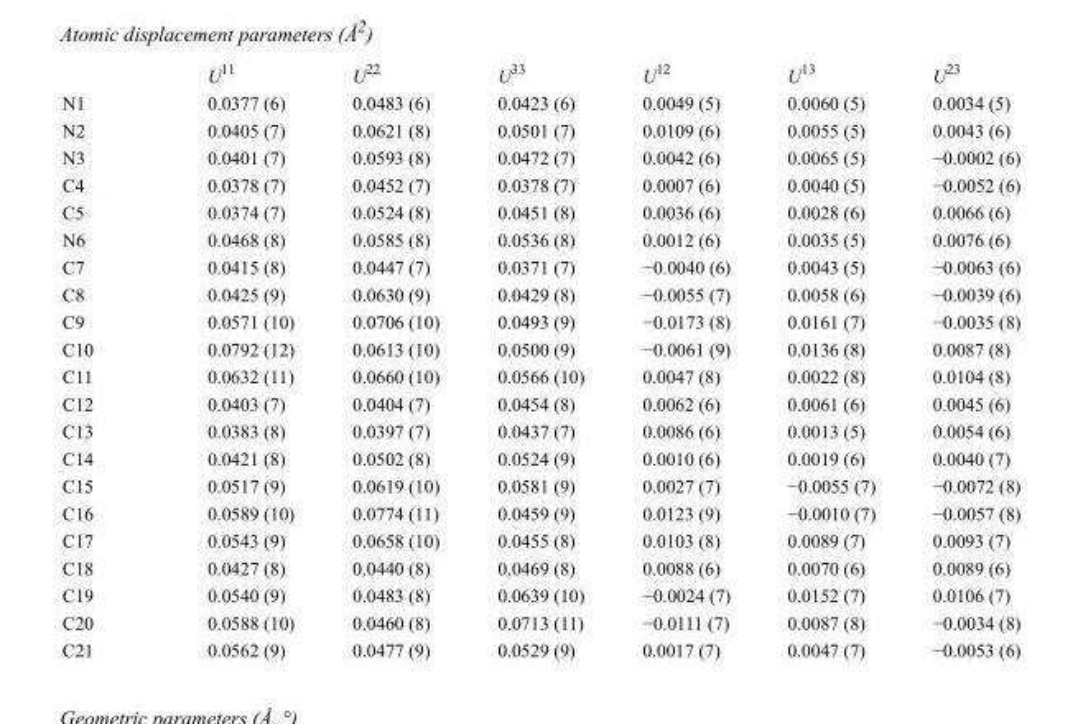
<table><thead><tr><td></td><td>U<sup>11</sup></td><td>U<sup>22</sup></td><td>U<sup>33</sup></td><td>U<sup>12</sup></td><td>U<sup>13</sup></td><td>U<sup>23</sup></td></tr></thead><tbody><tr><td>N1</td><td>0.0377 (6)</td><td>0.0483 (6)</td><td>0.0423 (6)</td><td>0.0049 (5)</td><td>0.0060 (5)</td><td>0.0034 (5)</td></tr><tr><td>N2</td><td>0.0405 (7)</td><td>0.0621 (8)</td><td>0.0501 (7)</td><td>0.0109 (6)</td><td>0.0055 (5)</td><td>0.0043 (6)</td></tr><tr><td>N3</td><td>0.0401 (7)</td><td>0.0593 (8)</td><td>0.0472 (7)</td><td>0.0042 (6)</td><td>0.0065 (5)</td><td>−0.0002 (6)</td></tr><tr><td>C4</td><td>0.0378 (7)</td><td>0.0452 (7)</td><td>0.0378 (7)</td><td>0.0007 (6)</td><td>0.0040 (5)</td><td>−0.0052 (6)</td></tr><tr><td>C5</td><td>0.0374 (7)</td><td>0.0524 (8)</td><td>0.0451 (8)</td><td>0.0036 (6)</td><td>0.0028 (6)</td><td>0.0066 (6)</td></tr><tr><td>N6</td><td>0.0468 (8)</td><td>0.0585 (8)</td><td>0.0536 (8)</td><td>0.0012 (6)</td><td>0.0035 (5)</td><td>0.0076 (6)</td></tr><tr><td>C7</td><td>0.0415 (8)</td><td>0.0447 (7)</td><td>0.0371 (7)</td><td>−0.0040 (6)</td><td>0.0043 (5)</td><td>−0.0063 (6)</td></tr><tr><td>C8</td><td>0.0425 (9)</td><td>0.0630 (9)</td><td>0.0429 (8)</td><td>−0.0055 (7)</td><td>0.0058 (6)</td><td>−0.0039 (6)</td></tr><tr><td>C9</td><td>0.0571 (10)</td><td>0.0706 (10)</td><td>0.0493 (9)</td><td>−0.0173 (8)</td><td>0.0161 (7)</td><td>−0.0035 (8)</td></tr><tr><td>C10</td><td>0.0792 (12)</td><td>0.0613 (10)</td><td>0.0500 (9)</td><td>−0.0061 (9)</td><td>0.0136 (8)</td><td>0.0087 (8)</td></tr><tr><td>C11</td><td>0.0632 (11)</td><td>0.0660 (10)</td><td>0.0566 (10)</td><td>0.0047 (8)</td><td>0.0022 (8)</td><td>0.0104 (8)</td></tr><tr><td>C12</td><td>0.0403 (7)</td><td>0.0404 (7)</td><td>0.0454 (8)</td><td>0.0062 (6)</td><td>0.0061 (6)</td><td>0.0045 (6)</td></tr><tr><td>C13</td><td>0.0383 (8)</td><td>0.0397 (7)</td><td>0.0437 (7)</td><td>0.0086 (6)</td><td>0.0013 (5)</td><td>0.0054 (6)</td></tr><tr><td>C14</td><td>0.0421 (8)</td><td>0.0502 (8)</td><td>0.0524 (9)</td><td>0.0010 (6)</td><td>0.0019 (6)</td><td>0.0040 (7)</td></tr><tr><td>C15</td><td>0.0517 (9)</td><td>0.0619 (10)</td><td>0.0581 (9)</td><td>0.0027 (7)</td><td>−0.0055 (7)</td><td>−0.0072 (8)</td></tr><tr><td>C16</td><td>0.0589 (10)</td><td>0.0774 (11)</td><td>0.0459 (9)</td><td>0.0123 (9)</td><td>−0.0010 (7)</td><td>−0.0057 (8)</td></tr><tr><td>C17</td><td>0.0543 (9)</td><td>0.0658 (10)</td><td>0.0455 (8)</td><td>0.0103 (8)</td><td>0.0089 (7)</td><td>0.0093 (7)</td></tr><tr><td>C18</td><td>0.0427 (8)</td><td>0.0440 (8)</td><td>0.0469 (8)</td><td>0.0088 (6)</td><td>0.0070 (6)</td><td>0.0089 (6)</td></tr><tr><td>C19</td><td>0.0540 (9)</td><td>0.0483 (8)</td><td>0.0639 (10)</td><td>−0.0024 (7)</td><td>0.0152 (7)</td><td>0.0106 (7)</td></tr><tr><td>C20</td><td>0.0588 (10)</td><td>0.0460 (8)</td><td>0.0713 (11)</td><td>−0.0111 (7)</td><td>0.0087 (8)</td><td>−0.0034 (8)</td></tr><tr><td>C21</td><td>0.0562 (9)</td><td>0.0477 (9)</td><td>0.0529 (9)</td><td>0.0017 (7)</td><td>0.0047 (7)</td><td>−0.0053 (6)</td></tr></tbody></table>